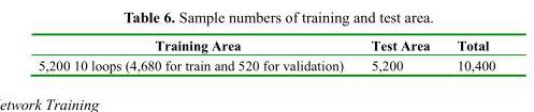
<table><thead><tr><td>Training Area</td><td>Test Area</td><td>Total</td></tr></thead><tbody><tr><td>5,200 10 loops (4,680 for train and 520 for validation)</td><td>5,200</td><td>10,400</td></tr></tbody></table>